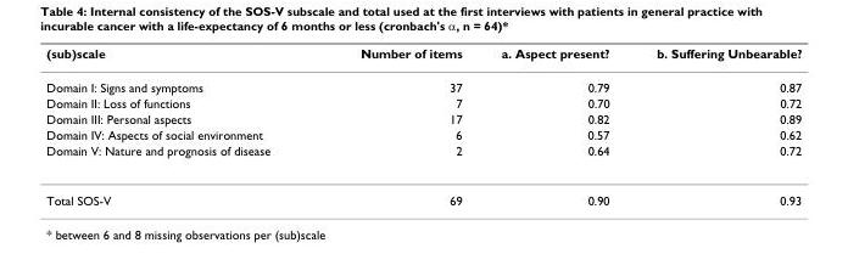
<table><thead><tr><td>(sub)scale</td><td>Number of items</td><td>a. Aspect present?</td><td>b. Suffering Unbearable?</td></tr></thead><tbody><tr><td>Domain I: Signs and symptoms</td><td>37</td><td>0.79</td><td>0.87</td></tr><tr><td>Domain II: Loss of functions</td><td>7</td><td>0.70</td><td>0.72</td></tr><tr><td>Domain III: Personal aspects</td><td>17</td><td>0.82</td><td>0.89</td></tr><tr><td>Domain IV: Aspects of social environment</td><td>6</td><td>0.57</td><td>0.62</td></tr><tr><td>Domain V: Nature and prognosis of disease</td><td>2</td><td>0.64</td><td>0.72</td></tr><tr><td>Total SOS-V</td><td>69</td><td>0.90</td><td>0.93</td></tr></tbody></table>